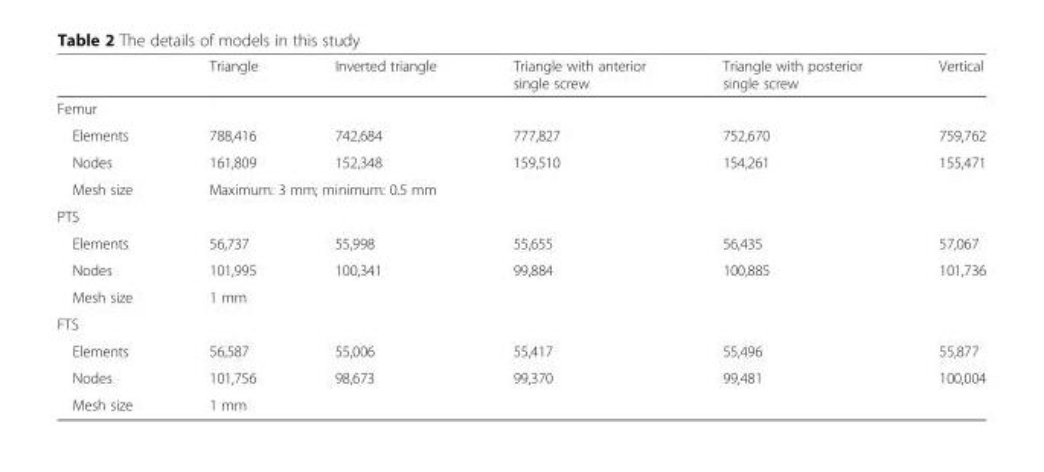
<table><thead><tr><td></td><td>Triangle</td><td>Inverted triangle</td><td>Triangle with anterior single screw</td><td>Triangle with posterior single screw</td><td>Vertical</td></tr></thead><tbody><tr><td colspan="6">Femur</td></tr><tr><td>Elements</td><td>788,416</td><td>742,684</td><td>777,827</td><td>752,670</td><td>759,762</td></tr><tr><td>Nodes</td><td>161,809</td><td>152,348</td><td>159,510</td><td>154,261</td><td>155,471</td></tr><tr><td>Mesh size</td><td colspan="5">Maximum: 3 mm; minimum: 0.5 mm</td></tr><tr><td colspan="6">PTS</td></tr><tr><td>Elements</td><td>56,737</td><td>55,998</td><td>55,655</td><td>56,435</td><td>57,067</td></tr><tr><td>Nodes</td><td>101,995</td><td>100,341</td><td>99,884</td><td>100,885</td><td>101,736</td></tr><tr><td>Mesh size</td><td colspan="5">1 mm</td></tr><tr><td colspan="6">FTS</td></tr><tr><td>Elements</td><td>56,587</td><td>55,006</td><td>55,417</td><td>55,496</td><td>55,877</td></tr><tr><td>Nodes</td><td>101,756</td><td>98,673</td><td>99,370</td><td>99,481</td><td>100,004</td></tr><tr><td>Mesh size</td><td colspan="5">1 mm</td></tr></tbody></table>